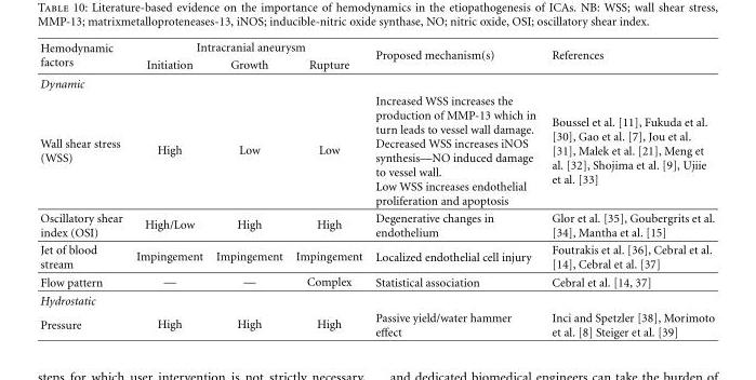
<table><thead><tr><td rowspan="2">Hemodynamic factors</td><td colspan="3">Intracranial aneurysm</td><td rowspan="2">Proposed mechanism(s)</td><td rowspan="2">References</td></tr><tr><td>Initiation</td><td>Growth</td><td>Rupture</td></tr></thead><tbody><tr><td colspan="6">Dynamic</td></tr><tr><td>Wall shear stress (WSS)</td><td>High</td><td>Low</td><td>Low</td><td>Increased WSS increases the production of MMP-13 which in turn leads to vessel wall damage. Decreased WSS increases iNOS synthesis—NO induced damage to vessel wall. Low WSS increases endothelial proliferation and apoptosis</td><td>Boussel et al. [11], Fukuda et al. [30], Gao et al. [7], Jou et al. [31], Malek et al. [21], Meng et al. [32], Shojima et al. [9], Ujiie et al. [33]</td></tr><tr><td>Oscillatory shear index (OSI)</td><td>High/Low</td><td>High</td><td>High</td><td>Degenerative changes in endothelium</td><td>Glor et al. [35], Goubergrits et al. [34], Mantha et al. [15]</td></tr><tr><td>Jet of blood stream</td><td>Impingement</td><td>Impingement</td><td>Impingement</td><td>Localized endothelial cell injury</td><td>Foutrakis et al. [36], Cebral et al. [14], Cebral et al. [37]</td></tr><tr><td>Flow pattern</td><td>—</td><td>—</td><td>Complex</td><td>Statistical association</td><td>Cebral et al. [14, 37]</td></tr><tr><td colspan="6">Hydrostatic</td></tr><tr><td>Pressure</td><td>High</td><td>High</td><td>High</td><td>Passive yield/water hammer effect</td><td>Inci and Spetzler [38], Morimoto et al. [8] Steiger et al. [39]</td></tr></tbody></table>